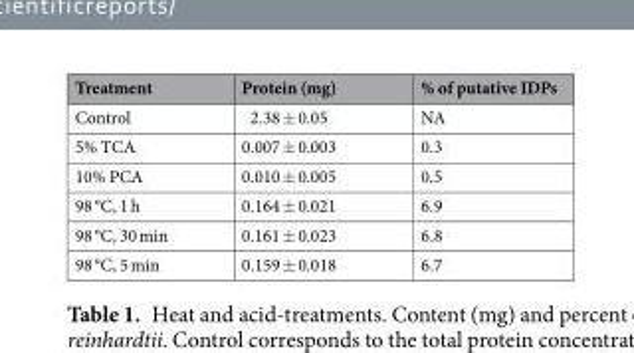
<table><thead><tr><td>Treatment</td><td>Protein (mg)</td><td>% of putative IDPs</td></tr></thead><tbody><tr><td>Control</td><td>2.38 ± 0.05</td><td>NA</td></tr><tr><td>5% TCA</td><td>0.007 ± 0.003</td><td>0.3</td></tr><tr><td>10% PCA</td><td>0.010 ± 0.005</td><td>0.5</td></tr><tr><td>98 °C, 1 h</td><td>0.164 ± 0.021</td><td>6.9</td></tr><tr><td>98 °C, 30 min</td><td>0.161 ± 0.023</td><td>6.8</td></tr><tr><td>98 °C, 5 min</td><td>0.159 ± 0.018</td><td>6.7</td></tr></tbody></table>